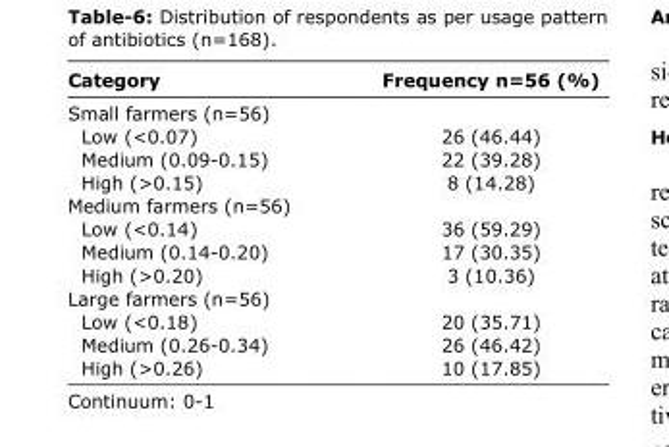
<table><thead><tr><td>Category</td><td>Frequency n=56 (%)</td></tr></thead><tbody><tr><td colspan="2">Small farmers (n=56)</td></tr><tr><td>Low (&lt;0.07)</td><td>26 (46.44)</td></tr><tr><td>Medium (0.09-0.15)</td><td>22 (39.28)</td></tr><tr><td>High (&gt;0.15)</td><td>8 (14.28)</td></tr><tr><td colspan="2">Medium farmers (n=56)</td></tr><tr><td>Low (&lt;0.14)</td><td>36 (59.29)</td></tr><tr><td>Medium (0.14-0.20)</td><td>17 (30.35)</td></tr><tr><td>High (&gt;0.20)</td><td>3 (10.36)</td></tr><tr><td colspan="2">Large farmers (n=56)</td></tr><tr><td>Low (&lt;0.18)</td><td>20 (35.71)</td></tr><tr><td>Medium (0.26-0.34)</td><td>26 (46.42)</td></tr><tr><td>High (&gt;0.26)</td><td>10 (17.85)</td></tr></tbody></table>